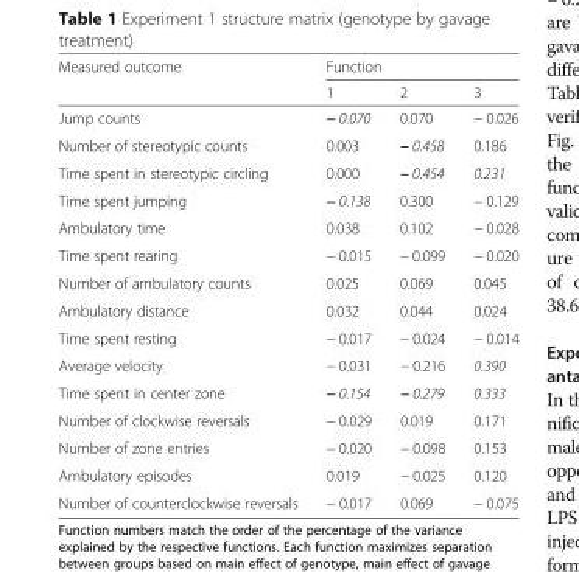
<table><thead><tr><td rowspan="2">Measured outcome</td><td colspan="3">Function</td></tr><tr><td>1</td><td>2</td><td>3</td></tr></thead><tbody><tr><td>Jump counts</td><td>− 0.070</td><td>0.070</td><td>− 0.026</td></tr><tr><td>Number of stereotypic counts</td><td>0.003</td><td>− 0.458</td><td>0.186</td></tr><tr><td>Time spent in stereotypic circling</td><td>0.000</td><td>− 0.454</td><td>0.231</td></tr><tr><td>Time spent jumping</td><td>− 0.138</td><td>0.300</td><td>− 0.129</td></tr><tr><td>Ambulatory time</td><td>0.038</td><td>0.102</td><td>− 0.028</td></tr><tr><td>Time spent rearing</td><td>− 0.015</td><td>− 0.099</td><td>− 0.020</td></tr><tr><td>Number of ambulatory counts</td><td>0.025</td><td>0.069</td><td>0.045</td></tr><tr><td>Ambulatory distance</td><td>0.032</td><td>0.044</td><td>0.024</td></tr><tr><td>Time spent resting</td><td>− 0.017</td><td>− 0.024</td><td>− 0.014</td></tr><tr><td>Average velocity</td><td>− 0.031</td><td>− 0.216</td><td>0.390</td></tr><tr><td>Time spent in center zone</td><td>− 0.154</td><td>− 0.279</td><td>0.333</td></tr><tr><td>Number of clockwise reversals</td><td>− 0.029</td><td>0.019</td><td>0.171</td></tr><tr><td>Number of zone entries</td><td>− 0.020</td><td>− 0.098</td><td>0.153</td></tr><tr><td>Ambulatory episodes</td><td>0.019</td><td>− 0.025</td><td>0.120</td></tr><tr><td>Number of counterclockwise reversals</td><td>− 0.017</td><td>0.069</td><td>− 0.075</td></tr></tbody></table>